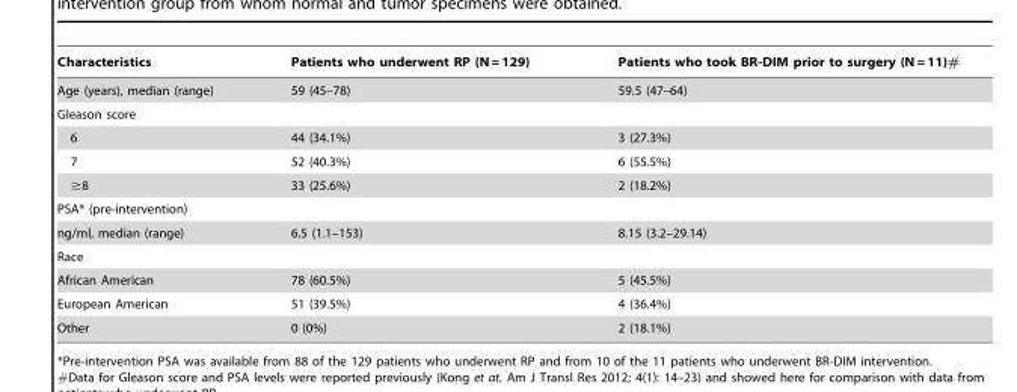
<table><thead><tr><td>Characteristics</td><td>Patients who underwent RP (N = 129)</td><td>Patients who took BR-DIM prior to surgery (N = 11)#</td></tr></thead><tbody><tr><td>Age (years), median (range)</td><td>59 (45–78)</td><td>59.5 (47–64)</td></tr><tr><td colspan="3">Gleason score</td></tr><tr><td>6</td><td>44 (34.1%)</td><td>3 (27.3%)</td></tr><tr><td>7</td><td>52 (40.3%)</td><td>6 (55.5%)</td></tr><tr><td>≥8</td><td>33 (25.6%)</td><td>2 (18.2%)</td></tr><tr><td colspan="3">PSA* (pre-intervention)</td></tr><tr><td>ng/ml, median (range)</td><td>6.5 (1.1–153)</td><td>8.15 (3.2–29.14)</td></tr><tr><td colspan="3">Race</td></tr><tr><td>African American</td><td>78 (60.5%)</td><td>5 (45.5%)</td></tr><tr><td>European American</td><td>51 (39.5%)</td><td>4 (36.4%)</td></tr><tr><td>Other</td><td>0 (0%)</td><td>2 (18.1%)</td></tr></tbody></table>